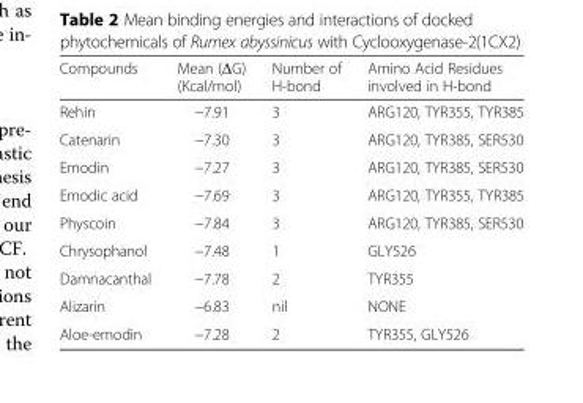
<table><thead><tr><td>Compounds</td><td>Mean (ΔG) (Kcal/mol)</td><td>Number of H-bond</td><td>Amino Acid Residues involved in H-bond</td></tr></thead><tbody><tr><td>Rehin</td><td>−7.91</td><td>3</td><td>ARG120, TYR355, TYR385</td></tr><tr><td>Catenarin</td><td>−7.30</td><td>3</td><td>ARG120, TYR385, SER530</td></tr><tr><td>Emodin</td><td>−7.27</td><td>3</td><td>ARG120, TYR385, SER530</td></tr><tr><td>Emodic acid</td><td>−7.69</td><td>3</td><td>ARG120, TYR355, TYR385</td></tr><tr><td>Physcoin</td><td>−7.84</td><td>3</td><td>ARG120, TYR385, SER530</td></tr><tr><td>Chrysophanol</td><td>−7.48</td><td>1</td><td>GLY526</td></tr><tr><td>Damnacanthal</td><td>−7.78</td><td>2</td><td>TYR355</td></tr><tr><td>Alizarin</td><td>−6.83</td><td>nil</td><td>NONE</td></tr><tr><td>Aloe-emodin</td><td>−7.28</td><td>2</td><td>TYR355, GLY526</td></tr></tbody></table>